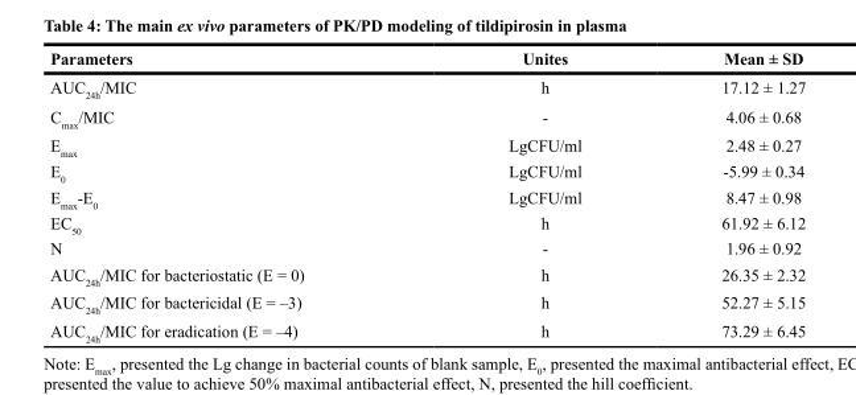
<table><thead><tr><td>Parameters</td><td>Unites</td><td>Mean ± SD</td></tr></thead><tbody><tr><td>AUC<sub>24h</sub>/MIC</td><td>h</td><td>17.12 ± 1.27</td></tr><tr><td>C<sub>max</sub>/MIC</td><td>-</td><td>4.06 ± 0.68</td></tr><tr><td><sub>Emax</sub></td><td>LgCFU/ml</td><td>2.48 ± 0.27</td></tr><tr><td><sub>E0</sub></td><td>LgCFU/ml</td><td>-5.99 ± 0.34</td></tr><tr><td>E<sub>max</sub>-E<sub>0</sub></td><td>LgCFU/ml</td><td>8.47 ± 0.98</td></tr><tr><td>EC<sub>50</sub></td><td>h</td><td>61.92 ± 6.12</td></tr><tr><td>N</td><td>-</td><td>1.96 ± 0.92</td></tr><tr><td>AUC<sub>24h</sub>/MIC for bacteriostatic (E = 0)</td><td>h</td><td>26.35 ± 2.32</td></tr><tr><td>AUC<sub>24h</sub>/MIC for bactericidal (E = –3)</td><td>h</td><td>52.27 ± 5.15</td></tr><tr><td>AUC<sub>24h</sub>/MIC for eradication (E = –4)</td><td>h</td><td>73.29 ± 6.45</td></tr></tbody></table>